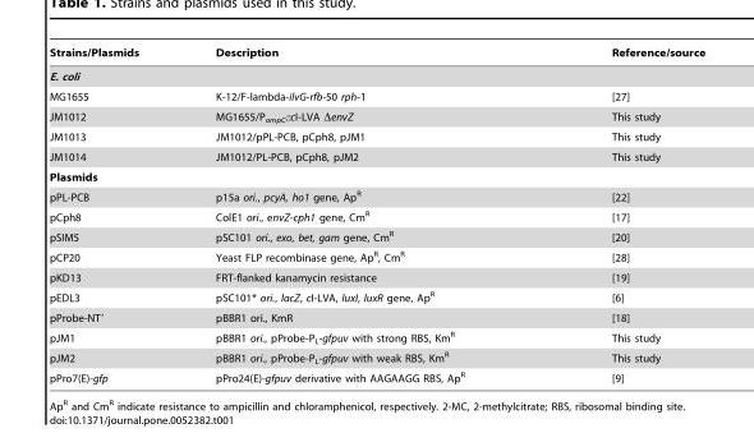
<table><thead><tr><td>Strains/Plasmids</td><td>Description</td><td>Reference/source</td></tr></thead><tbody><tr><td colspan="3">E. coli</td></tr><tr><td>MG1655</td><td>K-12/F-lambda-ilvG-rfb-50 rph-1</td><td>[27]</td></tr><tr><td>JM1012</td><td>MG1655/P<sub>ompC</sub>::cI-LVA ΔenvZ</td><td>This study</td></tr><tr><td>JM1013</td><td>JM1012/pPL-PCB, pCph8, pJM1</td><td>This study</td></tr><tr><td>JM1014</td><td>JM1012/PL-PCB, pCph8, pJM2</td><td>This study</td></tr><tr><td colspan="3">Plasmids</td></tr><tr><td>pPL-PCB</td><td>p15a ori., pcyA, ho1 gene, Ap<sup>R</sup></td><td>[22]</td></tr><tr><td>pCph8</td><td>ColE1 ori., envZ-cph1 gene, Cm<sup>R</sup></td><td>[17]</td></tr><tr><td>pSIM5</td><td>pSC101 ori., exo, bet, gam gene, Cm<sup>R</sup></td><td>[20]</td></tr><tr><td>pCP20</td><td>Yeast FLP recombinase gene, Ap<sup>R</sup>, Cm<sup>R</sup></td><td>[28]</td></tr><tr><td>pKD13</td><td>FRT-flanked kanamycin resistance</td><td>[19]</td></tr><tr><td>pEDL3</td><td>pSC101* ori., lacZ, cI-LVA, luxI, luxR gene, Ap<sup>R</sup></td><td>[6]</td></tr><tr><td>pProbe-NT′</td><td>pBBR1 ori., KmR</td><td>[18]</td></tr><tr><td>pJM1</td><td>pBBR1 ori., pProbe-P<sub>L</sub>-gfpuv with strong RBS, Km<sup>R</sup></td><td>This study</td></tr><tr><td>pJM2</td><td>pBBR1 ori., pProbe-P<sub>L</sub>-gfpuv with weak RBS, Km<sup>R</sup></td><td>This study</td></tr><tr><td>pPro7(E)-gfp</td><td>pPro24(E)-gfpuv derivative with AAGAAGG RBS, Ap<sup>R</sup></td><td>[9]</td></tr></tbody></table>